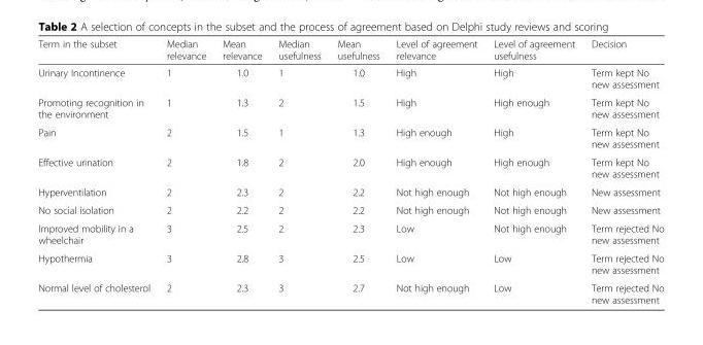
<table><thead><tr><td>Term in the subset</td><td>Median relevance</td><td>Mean relevance</td><td>Median usefulness</td><td>Mean usefulness</td><td>Level of agreement relevance</td><td>Level of agreement usefulness</td><td>Decision</td></tr></thead><tbody><tr><td>Urinary Incontinence</td><td>1</td><td>1.0</td><td>1</td><td>1.0</td><td>High</td><td>High</td><td>Term kept No new assessment</td></tr><tr><td>Promoting recognition in the environment</td><td>1</td><td>1.3</td><td>2</td><td>1.5</td><td>High</td><td>High enough</td><td>Term kept No new assessment</td></tr><tr><td>Pain</td><td>2</td><td>1.5</td><td>1</td><td>1.3</td><td>High enough</td><td>High</td><td>Term kept No new assessment</td></tr><tr><td>Effective urination</td><td>2</td><td>1.8</td><td>2</td><td>2.0</td><td>High enough</td><td>High enough</td><td>Term kept No new assessment</td></tr><tr><td>Hyperventilation</td><td>2</td><td>2.3</td><td>2</td><td>2.2</td><td>Not high enough</td><td>Not high enough</td><td>New assessment</td></tr><tr><td>No social isolation</td><td>2</td><td>2.2</td><td>2</td><td>2.2</td><td>Not high enough</td><td>Not high enough</td><td>New assessment</td></tr><tr><td>Improved mobility in a wheelchair</td><td>3</td><td>2.5</td><td>2</td><td>2.3</td><td>Low</td><td>Not high enough</td><td>Term rejected No new assessment</td></tr><tr><td>Hypothermia</td><td>3</td><td>2.8</td><td>3</td><td>2.5</td><td>Low</td><td>Low</td><td>Term rejected No new assessment</td></tr><tr><td>Normal level of cholesterol</td><td>2</td><td>2.3</td><td>3</td><td>2.7</td><td>Not high enough</td><td>Low</td><td>Term rejected No new assessment</td></tr></tbody></table>